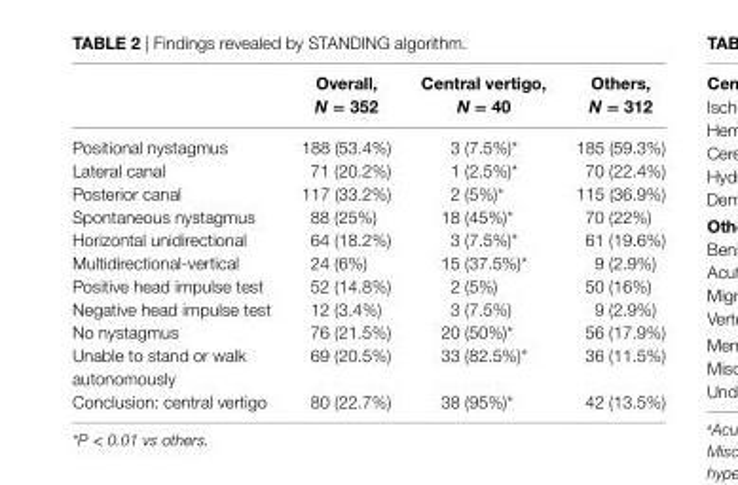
<table><thead><tr><td></td><td>Overall, N = 352</td><td>central vertigo, N = 40</td><td>Others, N = 312</td></tr></thead><tbody><tr><td>Positional nystagmus</td><td>188 (53.4%)</td><td>3 (7.5%)*</td><td>185 (59.3%)</td></tr><tr><td>Lateral canal</td><td>71 (20.2%)</td><td>1 (2.5%)*</td><td>70 (22.4%)</td></tr><tr><td>Posterior canal</td><td>117 (33.2%)</td><td>2 (5%)*</td><td>115 (36.9%)</td></tr><tr><td>Spontaneous nystagmus</td><td>88 (25%)</td><td>18 (45%)*</td><td>70 (22%)</td></tr><tr><td>Horizontal unidirectional</td><td>64 (18.2%)</td><td>3 (7.5%)*</td><td>61 (19.6%)</td></tr><tr><td>Multidirectional-vertical</td><td>24 (6%)</td><td>15 (37.5%)*</td><td>9 (2.9%)</td></tr><tr><td>Positive head impulse test</td><td>52 (14.8%)</td><td>2 (5%)</td><td>50 (16%)</td></tr><tr><td>Negative head impulse test</td><td>12 (3.4%)</td><td>3 (7.5%)</td><td>9 (2.9%)</td></tr><tr><td>No nystagmus</td><td>76 (21.5%)</td><td>20 (50%)*</td><td>56 (17.9%)</td></tr><tr><td>Unable to stand or walk autonomously</td><td>69 (20.5%)</td><td>33 (82.5%)*</td><td>36 (11.5%)</td></tr><tr><td>Conclusion: central vertigo</td><td>80 (22.7%)</td><td>38 (95%)*</td><td>42 (13.5%)</td></tr></tbody></table>